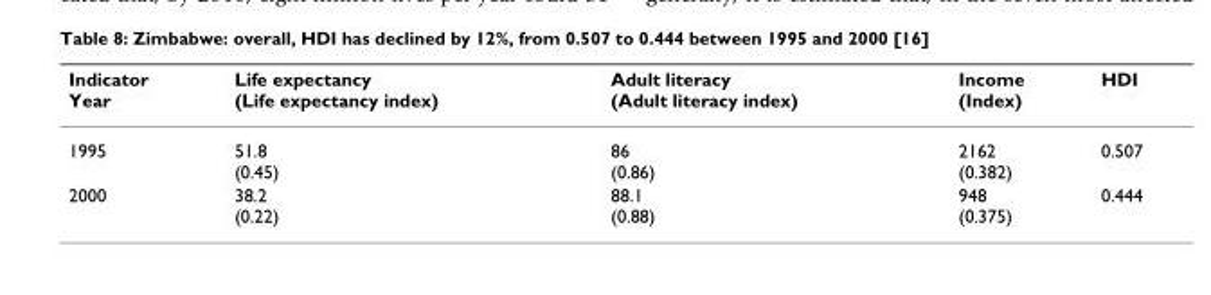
<table><thead><tr><td>Indicator Year</td><td>Life expectancy (Life expectancy index)</td><td>Adult literacy (Adult literacy index)</td><td>Income (Index)</td><td>HDI</td></tr></thead><tbody><tr><td>1995</td><td>51.8 (0.45)</td><td>86 (0.86)</td><td>2162 (0.382)</td><td>0.507</td></tr><tr><td>2000</td><td>38.2 (0.22)</td><td>88.1 (0.88)</td><td>948 (0.375)</td><td>0.444</td></tr></tbody></table>